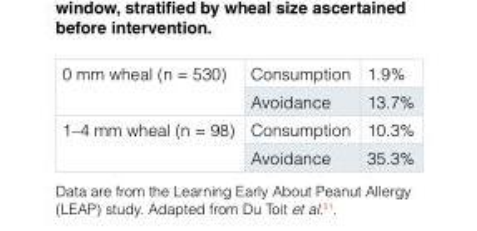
<table><tbody><tr><td rowspan="2">0 mm wheal (n = 530)</td><td>Consumption</td><td>1.9%</td></tr><tr><td>Avoidance</td><td>13.7%</td></tr><tr><td rowspan="2">1–4 mm wheal (n = 98)</td><td>Consumption</td><td>10.3%</td></tr><tr><td>Avoidance</td><td>35.3%</td></tr></tbody></table>